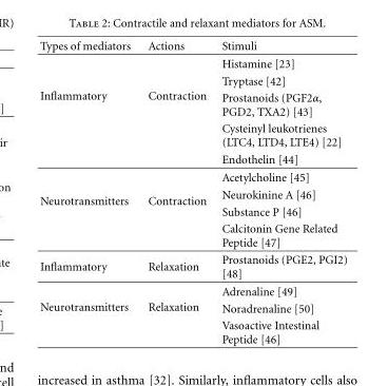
<table><thead><tr><td>Types of mediators</td><td>Actions</td><td>Stimuli</td></tr></thead><tbody><tr><td rowspan="5">Inflammatory</td><td rowspan="5">Contraction</td><td>Histamine [23]</td></tr><tr><td>Tryptase [42]</td></tr><tr><td>Prostanoids (PGF2α, PGD2, TXA2) [43]</td></tr><tr><td>Cysteinyl leukotrienes (LTC4, LTD4, LTE4) [22]</td></tr><tr><td>Endothelin [44]</td></tr><tr><td rowspan="4">Neurotransmitters</td><td rowspan="4">Contraction</td><td>Acetylcholine [45]</td></tr><tr><td>Neurokinine A [46]</td></tr><tr><td>Substance P [46]</td></tr><tr><td>Calcitonin Gene Related Peptide [47]</td></tr><tr><td>Inflammatory</td><td>Relaxation</td><td>Prostanoids (PGE2, PGI2) [48]</td></tr><tr><td rowspan="3">Neurotransmitters</td><td rowspan="3">Relaxation</td><td>Adrenaline [49]</td></tr><tr><td>Noradrenaline [50]</td></tr><tr><td>Vasoactive Intestinal Peptide [46]</td></tr></tbody></table>